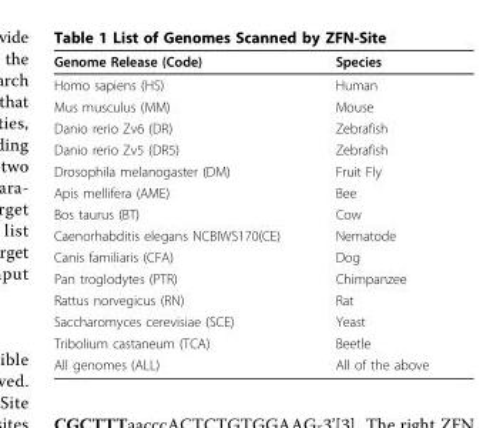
<table><thead><tr><td>Genome Release (Code)</td><td>Species</td></tr></thead><tbody><tr><td>Homo sapiens (HS)</td><td>Human</td></tr><tr><td>Mus musculus (MM)</td><td>Mouse</td></tr><tr><td>Danio rerio Zv6 (DR)</td><td>Zebrafish</td></tr><tr><td>Danio rerio Zv5 (DR5)</td><td>Zebrafish</td></tr><tr><td>Drosophila melanogaster (DM)</td><td>Fruit Fly</td></tr><tr><td>Apis mellifera (AME)</td><td>Bee</td></tr><tr><td>Bos taurus (BT)</td><td>Cow</td></tr><tr><td>Caenorhabditis elegans NCBIWS170(CE)</td><td>Nematode</td></tr><tr><td>Canis familiaris (CFA)</td><td>Dog</td></tr><tr><td>Pan troglodytes (PTR)</td><td>Chimpanzee</td></tr><tr><td>Rattus norvegicus (RN)</td><td>Rat</td></tr><tr><td>Saccharomyces cerevisiae (SCE)</td><td>Yeast</td></tr><tr><td>Tribolium castaneum (TCA)</td><td>Beetle</td></tr><tr><td>All genomes (ALL)</td><td>All of the above</td></tr></tbody></table>